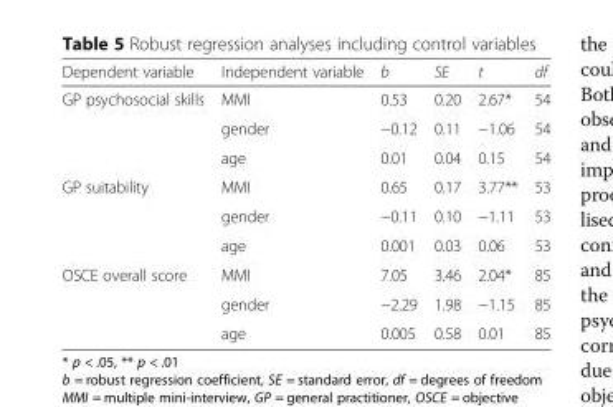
<table><thead><tr><td>Dependent variable</td><td>Independent variable</td><td>b</td><td>SE</td><td>t</td><td>df</td></tr></thead><tbody><tr><td rowspan="3">GP psychosocial skills</td><td>MMI</td><td>0.53</td><td>0.20</td><td>2.67*</td><td>54</td></tr><tr><td>gender</td><td>−0.12</td><td>0.11</td><td>−1.06</td><td>54</td></tr><tr><td>age</td><td>0.01</td><td>0.04</td><td>0.15</td><td>54</td></tr><tr><td rowspan="3">GP suitability</td><td>MMI</td><td>0.65</td><td>0.17</td><td>3.77**</td><td>53</td></tr><tr><td>gender</td><td>−0.11</td><td>0.10</td><td>−1.11</td><td>53</td></tr><tr><td>age</td><td>0.001</td><td>0.03</td><td>0.06</td><td>53</td></tr><tr><td rowspan="3">OSCE overall score</td><td>MMI</td><td>7.05</td><td>3.46</td><td>2.04*</td><td>85</td></tr><tr><td>gender</td><td>−2.29</td><td>1.98</td><td>−1.15</td><td>85</td></tr><tr><td>age</td><td>0.005</td><td>0.58</td><td>0.01</td><td>85</td></tr></tbody></table>